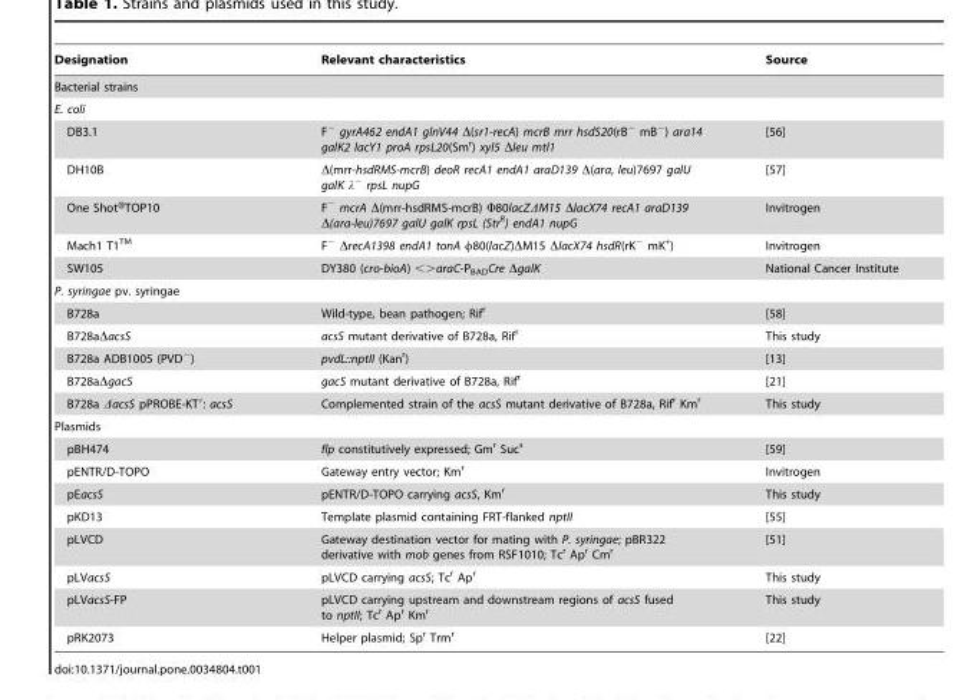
<table><thead><tr><td>Designation</td><td>Relevant characteristics</td><td>Source</td></tr></thead><tbody><tr><td colspan="3">Bacterial strains</td></tr><tr><td colspan="3">E. coli</td></tr><tr><td>DB3.1</td><td>F<sup>−</sup> gyrA462 endA1 glnV44 Δ(sr1-recA) mcrB mrr hsdS20(rB<sup>−</sup> mB<sup>−</sup>) ara14 galK2 lacY1 proA rpsL20(Sm<sup>r</sup>) xyl5 Δleu mtl1</td><td>[56]</td></tr><tr><td>DH10B</td><td>Δ(mrr-hsdRMS-mcrB) deoR recA1 endA1 araD139 Δ(ara, leu)7697 galU galK λ<sup>−</sup> rpsL nupG</td><td>[57]</td></tr><tr><td>One Shot®TOP10</td><td>F<sup>−</sup> mcrA Δ(mrr-hsdRMS-mcrB) Φ80lacZΔM15 ΔlacX74 recA1 araD139 Δ(ara-leu)7697 galU galK rpsL (Str<sup>R</sup>) endA1 nupG</td><td>Invitrogen</td></tr><tr><td>Mach1 T1TM</td><td>F<sup>−</sup> ΔrecA1398 endA1 tonA φ80(lacZ)ΔM15 ΔlacX74 hsdR(rK<sup>−</sup> mK<sup>+</sup>)</td><td>Invitrogen</td></tr><tr><td>SW105</td><td>DY380 (cro-bioA) &lt;&gt;araC-P<sub>BAD</sub>Cre ΔgalK</td><td>National Cancer Institute</td></tr><tr><td colspan="3">P. syringae pv. syringae</td></tr><tr><td>B728a</td><td>Wild-type, bean pathogen; Rif<sup>r</sup></td><td>[58]</td></tr><tr><td>B728aΔacsS</td><td>acsS mutant derivative of B728a, Rif<sup>r</sup></td><td>This study</td></tr><tr><td>B728a ADB1005 (PVD<sup>−</sup>)</td><td>pvdL::nptII (Kan<sup>r</sup>)</td><td>[13]</td></tr><tr><td>B728aΔgacS</td><td>gacS mutant derivative of B728a, Rif<sup>r</sup></td><td>[21]</td></tr><tr><td>B728a ΔacsS pPROBE-KT′: acsS</td><td>Complemented strain of the acsS mutant derivative of B728a, Rif<sup>r</sup> Km<sup>r</sup></td><td>This study</td></tr><tr><td colspan="3">Plasmids</td></tr><tr><td>pBH474</td><td>flp constitutively expressed; Gm<sup>r</sup> Suc<sup>s</sup></td><td>[59]</td></tr><tr><td>pENTR/D-TOPO</td><td>Gateway entry vector; Km<sup>r</sup></td><td>Invitrogen</td></tr><tr><td>pEacsS</td><td>pENTR/D-TOPO carrying acsS, Km<sup>r</sup></td><td>This study</td></tr><tr><td>pKD13</td><td>Template plasmid containing FRT-flanked nptII</td><td>[55]</td></tr><tr><td>pLVCD</td><td>Gateway destination vector for mating with P. syringae; pBR322 derivative with mob genes from RSF1010; Tc<sup>r</sup> Ap<sup>r</sup> Cm<sup>r</sup></td><td>[51]</td></tr><tr><td>pLVacsS</td><td>pLVCD carrying acsS; Tc<sup>r</sup> Ap<sup>r</sup></td><td>This study</td></tr><tr><td>pLVacsS-FP</td><td>pLVCD carrying upstream and downstream regions of acsS fused to nptII; Tc<sup>r</sup> Ap<sup>r</sup> Km<sup>r</sup></td><td>This study</td></tr><tr><td>pRK2073</td><td>Helper plasmid; Sp<sup>r</sup> Trm<sup>r</sup></td><td>[22]</td></tr></tbody></table>